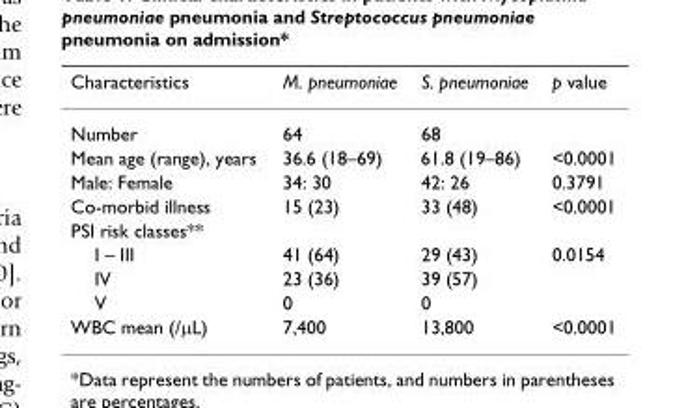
<table><thead><tr><td>Characteristics</td><td>M. pneumoniae</td><td>S. pneumoniae</td><td>p value</td></tr></thead><tbody><tr><td>Number</td><td>64</td><td>68</td><td></td></tr><tr><td>Mean age (range), years</td><td>36.6 (18–69)</td><td>61.8 (19–86)</td><td>&lt;0.0001</td></tr><tr><td>Male: Female</td><td>34: 30</td><td>42: 26</td><td>0.3791</td></tr><tr><td>Co-morbid illness</td><td>15 (23)</td><td>33 (48)</td><td>&lt;0.0001</td></tr><tr><td colspan="4">PSI risk classes**</td></tr><tr><td>I – III</td><td>41 (64)</td><td>29 (43)</td><td>0.0154</td></tr><tr><td>IV</td><td>23 (36)</td><td>39 (57)</td><td></td></tr><tr><td>V</td><td>0</td><td>0</td><td></td></tr><tr><td>WBC mean (/μL)</td><td>7,400</td><td>13,800</td><td>&lt;0.0001</td></tr></tbody></table>